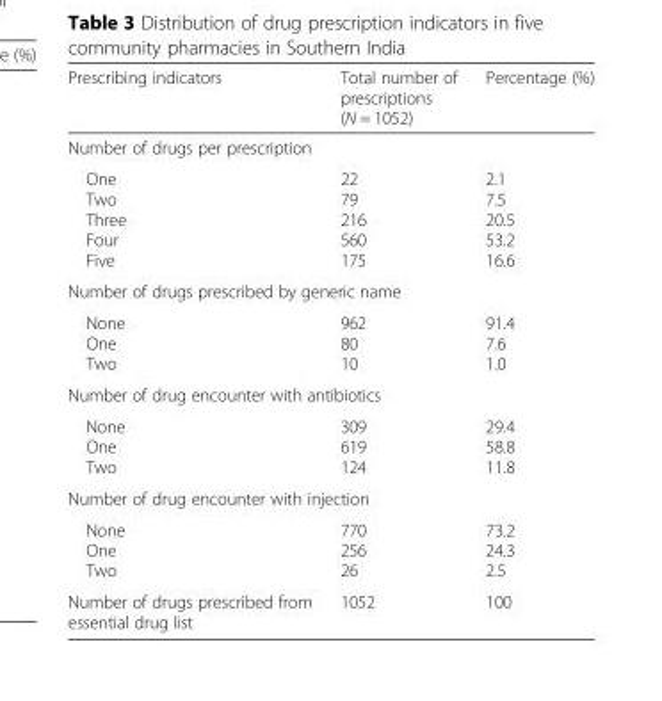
<table><thead><tr><td>Prescribing indicators</td><td>Total number of prescriptions (N = 1052)</td><td>Percentage (%)</td></tr></thead><tbody><tr><td colspan="3">Number of drugs per prescription</td></tr><tr><td>One Two Three Four Five</td><td>22 79 216 560 175</td><td>2.1 7.5 20.5 53.2 16.6</td></tr><tr><td colspan="3">Number of drugs prescribed by generic name</td></tr><tr><td>None One Two</td><td>962 80 10</td><td>91.4 7.6 1.0</td></tr><tr><td colspan="3">Number of drug encounter with antibiotics</td></tr><tr><td>None One Two</td><td>309 619 124</td><td>29.4 58.8 11.8</td></tr><tr><td colspan="3">Number of drug encounter with injection</td></tr><tr><td>None One Two</td><td>770 256 26</td><td>73.2 24.3 2.5</td></tr><tr><td>Number of drugs prescribed from essential drug list</td><td>1052</td><td>100</td></tr></tbody></table>